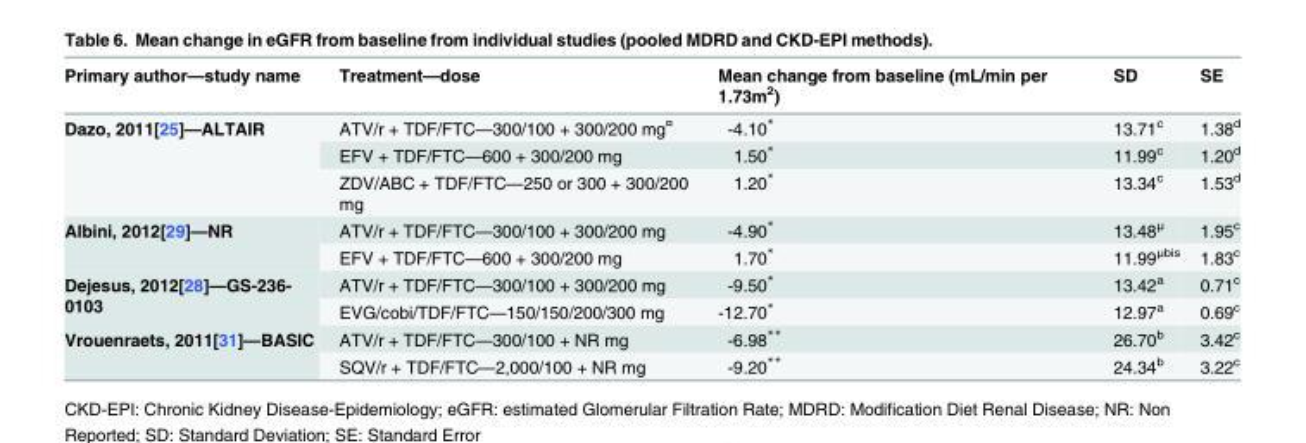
<table><thead><tr><td>Primary author—study name</td><td>Treatment—dose</td><td>Mean change from baseline (mL/min per 1.73m<sup>2</sup>)</td><td>SD</td><td>SE</td></tr></thead><tbody><tr><td rowspan="3">Dazo, 2011[25]—ALTAIR</td><td>ATV/r + TDF/FTC—300/100 + 300/200 mg<sup>¤</sup></td><td>-4.10*</td><td>13.71<sup>c</sup></td><td>1.38<sup>d</sup></td></tr><tr><td>EFV + TDF/FTC—600 + 300/200 mg</td><td>1.50*</td><td>11.99<sup>c</sup></td><td>1.20<sup>d</sup></td></tr><tr><td>ZDV/ABC + TDF/FTC—250 or 300 + 300/200 mg</td><td>1.20*</td><td>13.34<sup>c</sup></td><td>1.53<sup>d</sup></td></tr><tr><td rowspan="2">Albini, 2012[29]—NR</td><td>ATV/r + TDF/FTC—300/100 + 300/200 mg</td><td>-4.90*</td><td>13.48<sup>μ</sup></td><td>1.95<sup>c</sup></td></tr><tr><td>EFV + TDF/FTC—600 + 300/200 mg</td><td>1.70*</td><td>11.99<sup>μbis</sup></td><td>1.83<sup>c</sup></td></tr><tr><td rowspan="2">Dejesus, 2012[28]—GS-236- 0103</td><td>ATV/r + TDF/FTC—300/100 + 300/200 mg</td><td>-9.50*</td><td>13.42<sup>a</sup></td><td>0.71<sup>c</sup></td></tr><tr><td>EVG/cobi/TDF/FTC—150/150/200/300 mg</td><td>-12.70*</td><td>12.97<sup>a</sup></td><td>0.69<sup>c</sup></td></tr><tr><td rowspan="2">Vrouenraets, 2011[31]—BASIC</td><td>ATV/r + TDF/FTC—300/100 + NR mg</td><td>-6.98**</td><td>26.70<sup>b</sup></td><td>3.42<sup>c</sup></td></tr><tr><td>SQV/r + TDF/FTC—2,000/100 + NR mg</td><td>-9.20**</td><td>24.34<sup>b</sup></td><td>3.22<sup>c</sup></td></tr></tbody></table>